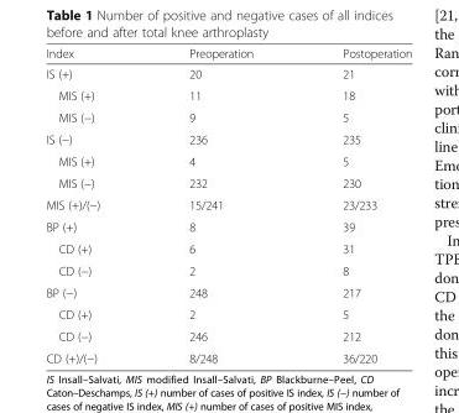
<table><thead><tr><td>Index</td><td>Preoperation</td><td>Postoperation</td></tr></thead><tbody><tr><td>IS (+)</td><td>20</td><td>21</td></tr><tr><td>MIS (+)</td><td>11</td><td>18</td></tr><tr><td>MIS (−)</td><td>9</td><td>5</td></tr><tr><td>IS (−)</td><td>236</td><td>235</td></tr><tr><td>MIS (+)</td><td>4</td><td>5</td></tr><tr><td>MIS (−)</td><td>232</td><td>230</td></tr><tr><td>MIS (+)/(−)</td><td>15/241</td><td>23/233</td></tr><tr><td>BP (+)</td><td>8</td><td>39</td></tr><tr><td>CD (+)</td><td>6</td><td>31</td></tr><tr><td>CD (−)</td><td>2</td><td>8</td></tr><tr><td>BP (−)</td><td>248</td><td>217</td></tr><tr><td>CD (+)</td><td>2</td><td>5</td></tr><tr><td>CD (−)</td><td>246</td><td>212</td></tr><tr><td>CD (+)/(−)</td><td>8/248</td><td>36/220</td></tr></tbody></table>